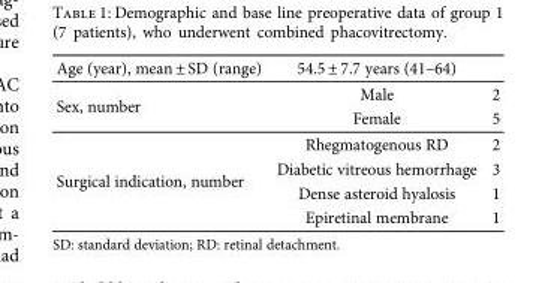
<table><tbody><tr><td>Age (year), mean ± SD (range)</td><td>54.5 ± 7.7 years (41–64)</td><td></td></tr><tr><td rowspan="2">Sex, number</td><td>Male</td><td>2</td></tr><tr><td>Female</td><td>5</td></tr><tr><td rowspan="4">Surgical indication, number</td><td>Rhegmatogenous RD</td><td>2</td></tr><tr><td>Diabetic vitreous hemorrhage</td><td>3</td></tr><tr><td>Dense asteroid hyalosis</td><td>1</td></tr><tr><td>Epiretinal membrane</td><td>1</td></tr></tbody></table>